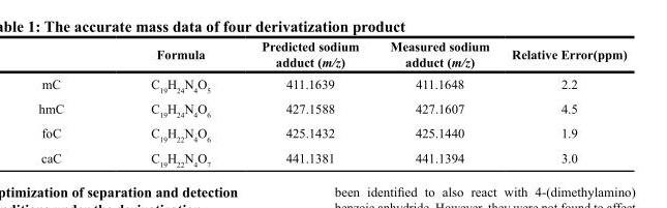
<table><thead><tr><td></td><td>Formula</td><td>Predicted sodium adduct (m/z)</td><td>Measured sodium adduct (m/z)</td><td>Relative Error(ppm)</td></tr></thead><tbody><tr><td>mC</td><td>C<sub>19</sub>H<sub>24</sub>N<sub>4</sub>O<sub>5</sub></td><td>411.1639</td><td>411.1648</td><td>2.2</td></tr><tr><td>hmC</td><td>C<sub>19</sub>H<sub>24</sub>N<sub>4</sub>O<sub>6</sub></td><td>427.1588</td><td>427.1607</td><td>4.5</td></tr><tr><td>foC</td><td>C<sub>19</sub>H<sub>22</sub>N<sub>4</sub>O<sub>6</sub></td><td>425.1432</td><td>425.1440</td><td>1.9</td></tr><tr><td>caC</td><td>C<sub>19</sub>H<sub>22</sub>N<sub>4</sub>O<sub>7</sub></td><td>441.1381</td><td>441.1394</td><td>3.0</td></tr></tbody></table>